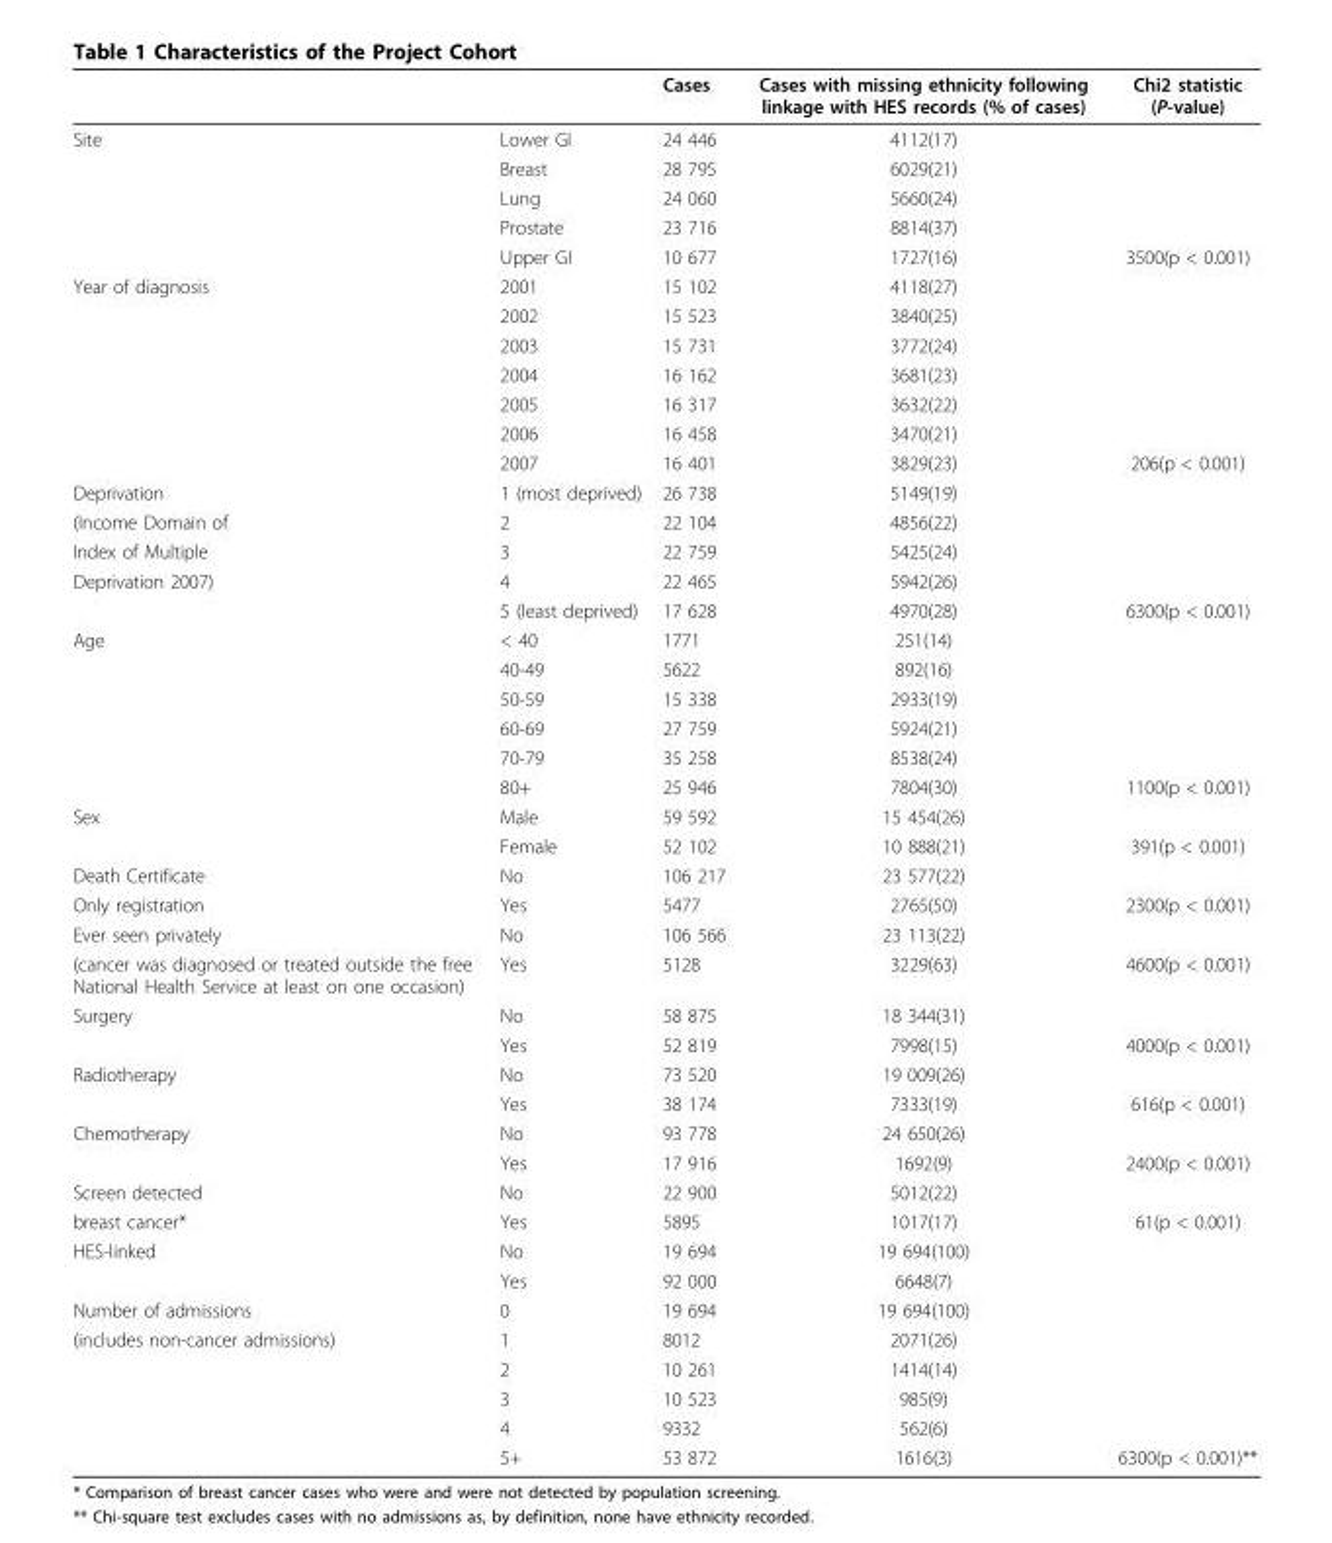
<table><thead><tr><td></td><td></td><td>Cases</td><td>Cases with missing ethnicity following linkage with HES records (% of cases)</td><td>Chi2 statistic (P-value)</td></tr></thead><tbody><tr><td rowspan="5">Site</td><td>Lower GI</td><td>24 446</td><td>4112(17)</td><td></td></tr><tr><td>Breast</td><td>28 795</td><td>6029(21)</td><td></td></tr><tr><td>Lung</td><td>24 060</td><td>5660(24)</td><td></td></tr><tr><td>Prostate</td><td>23 716</td><td>8814(37)</td><td></td></tr><tr><td>Upper GI</td><td>10 677</td><td>1727(16)</td><td>3500(p &lt; 0.001)</td></tr><tr><td rowspan="7">Year of diagnosis</td><td>2001</td><td>15 102</td><td>4118(27)</td><td></td></tr><tr><td>2002</td><td>15 523</td><td>3840(25)</td><td></td></tr><tr><td>2003</td><td>15 731</td><td>3772(24)</td><td></td></tr><tr><td>2004</td><td>16 162</td><td>3681(23)</td><td></td></tr><tr><td>2005</td><td>16 317</td><td>3632(22)</td><td></td></tr><tr><td>2006</td><td>16 458</td><td>3470(21)</td><td></td></tr><tr><td>2007</td><td>16 401</td><td>3829(23)</td><td>206(p &lt; 0.001)</td></tr><tr><td>Deprivation</td><td>1 (most deprived)</td><td>26 738</td><td>5149(19)</td><td></td></tr><tr><td>(Income Domain of</td><td>2</td><td>22 104</td><td>4856(22)</td><td></td></tr><tr><td>Index of Multiple</td><td>3</td><td>22 759</td><td>5425(24)</td><td></td></tr><tr><td rowspan="2">Deprivation 2007)</td><td>4</td><td>22 465</td><td>5942(26)</td><td></td></tr><tr><td>5 (least deprived)</td><td>17 628</td><td>4970(28)</td><td>6300(p &lt; 0.001)</td></tr><tr><td rowspan="6">Age</td><td>&lt; 40</td><td>1771</td><td>251(14)</td><td></td></tr><tr><td>40-49</td><td>5622</td><td>892(16)</td><td></td></tr><tr><td>50-59</td><td>15 338</td><td>2933(19)</td><td></td></tr><tr><td>60-69</td><td>27 759</td><td>5924(21)</td><td></td></tr><tr><td>70-79</td><td>35 258</td><td>8538(24)</td><td></td></tr><tr><td>80+</td><td>25 946</td><td>7804(30)</td><td>1100(p &lt; 0.001)</td></tr><tr><td rowspan="2">Sex</td><td>Male</td><td>59 592</td><td>15 454(26)</td><td></td></tr><tr><td>Female</td><td>52 102</td><td>10 888(21)</td><td>391(p &lt; 0.001)</td></tr><tr><td>Death Certificate</td><td>No</td><td>106 217</td><td>23 577(22)</td><td></td></tr><tr><td>Only registration</td><td>Yes</td><td>5477</td><td>2765(50)</td><td>2300(p &lt; 0.001)</td></tr><tr><td>Ever seen privately</td><td>No</td><td>106 566</td><td>23 113(22)</td><td></td></tr><tr><td>(cancer was diagnosed or treated outside the free National Health Service at least on one occasion)</td><td>Yes</td><td>5128</td><td>3229(63)</td><td>4600(p &lt; 0.001)</td></tr><tr><td rowspan="2">Surgery</td><td>No</td><td>58 875</td><td>18 344(31)</td><td></td></tr><tr><td>Yes</td><td>52 819</td><td>7998(15)</td><td>4000(p &lt; 0.001)</td></tr><tr><td rowspan="2">Radiotherapy</td><td>No</td><td>73 520</td><td>19 009(26)</td><td></td></tr><tr><td>Yes</td><td>38 174</td><td>7333(19)</td><td>616(p &lt; 0.001)</td></tr><tr><td rowspan="2">Chemotherapy</td><td>No</td><td>93 778</td><td>24 650(26)</td><td></td></tr><tr><td>Yes</td><td>17 916</td><td>1692(9)</td><td>2400(p &lt; 0.001)</td></tr><tr><td>Screen detected</td><td>No</td><td>22 900</td><td>5012(22)</td><td></td></tr><tr><td>breast cancer*</td><td>Yes</td><td>5895</td><td>1017(17)</td><td>61(p &lt; 0.001)</td></tr><tr><td rowspan="2">HES-linked</td><td>No</td><td>19 694</td><td>19 694(100)</td><td></td></tr><tr><td>Yes</td><td>92 000</td><td>6648(7)</td><td></td></tr><tr><td>Number of admissions</td><td>0</td><td>19 694</td><td>19 694(100)</td><td></td></tr><tr><td rowspan="5">(includes non-cancer admissions)</td><td>1</td><td>8012</td><td>2071(26)</td><td></td></tr><tr><td>2</td><td>10 261</td><td>1414(14)</td><td></td></tr><tr><td>3</td><td>10 523</td><td>985(9)</td><td></td></tr><tr><td>4</td><td>9332</td><td>562(6)</td><td></td></tr><tr><td>5+</td><td>53 872</td><td>1616(3)</td><td>6300(p &lt; 0.001)**</td></tr></tbody></table>